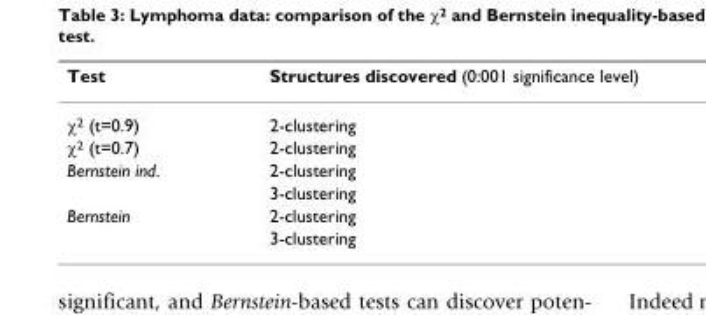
<table><tbody><tr><td>Test</td><td>Structures discovered (0:001 significance level)</td></tr><tr><td>χ<sup>2</sup> (t=0.9)</td><td>2-clustering</td></tr><tr><td>χ<sup>2</sup> (t=0.7)</td><td>2-clustering</td></tr><tr><td rowspan="2">Bernstein ind.</td><td>2-clustering</td></tr><tr><td>3-clustering</td></tr><tr><td rowspan="2">Bernstein</td><td>2-clustering</td></tr><tr><td>3-clustering</td></tr></tbody></table>